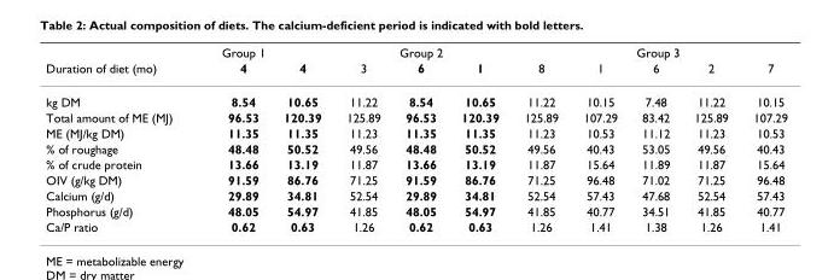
<table><thead><tr><td rowspan="2">Duration of diet (mo)</td><td colspan="3">Group 1</td><td colspan="4">Group 2</td><td colspan="3">Group 3</td></tr><tr><td>4</td><td>4</td><td>3</td><td>6</td><td>1</td><td>8</td><td>1</td><td>6</td><td>2</td><td>7</td></tr></thead><tbody><tr><td>kg DM</td><td>8.54</td><td>10.65</td><td>11.22</td><td>8.54</td><td>10.65</td><td>11.22</td><td>10.15</td><td>7.48</td><td>11.22</td><td>10.15</td></tr><tr><td>Total amount of ME (MJ)</td><td>96.53</td><td>120.39</td><td>125.89</td><td>96.53</td><td>120.39</td><td>125.89</td><td>107.29</td><td>83.42</td><td>125.89</td><td>107.29</td></tr><tr><td>ME (MJ/kg DM)</td><td>11.35</td><td>11.35</td><td>11.23</td><td>11.35</td><td>11.35</td><td>11.23</td><td>10.53</td><td>11.12</td><td>11.23</td><td>10.53</td></tr><tr><td>% of roughage</td><td>48.48</td><td>50.52</td><td>49.56</td><td>48.48</td><td>50.52</td><td>49.56</td><td>40.43</td><td>53.05</td><td>49.56</td><td>40.43</td></tr><tr><td>% of crude protein</td><td>13.66</td><td>13.19</td><td>11.87</td><td>13.66</td><td>13.19</td><td>11.87</td><td>15.64</td><td>11.89</td><td>11.87</td><td>15.64</td></tr><tr><td>OIV (g/kg DM)</td><td>91.59</td><td>86.76</td><td>71.25</td><td>91.59</td><td>86.76</td><td>71.25</td><td>96.48</td><td>71.02</td><td>71.25</td><td>96.48</td></tr><tr><td>Calcium (g/d)</td><td>29.89</td><td>34.81</td><td>52.54</td><td>29.89</td><td>34.81</td><td>52.54</td><td>57.43</td><td>47.68</td><td>52.54</td><td>57.43</td></tr><tr><td>Phosphorus (g/d)</td><td>48.05</td><td>54.97</td><td>41.85</td><td>48.05</td><td>54.97</td><td>41.85</td><td>40.77</td><td>34.51</td><td>41.85</td><td>40.77</td></tr><tr><td>Ca/P ratio</td><td>0.62</td><td>0.63</td><td>1.26</td><td>0.62</td><td>0.63</td><td>1.26</td><td>1.41</td><td>1.38</td><td>1.26</td><td>1.41</td></tr></tbody></table>